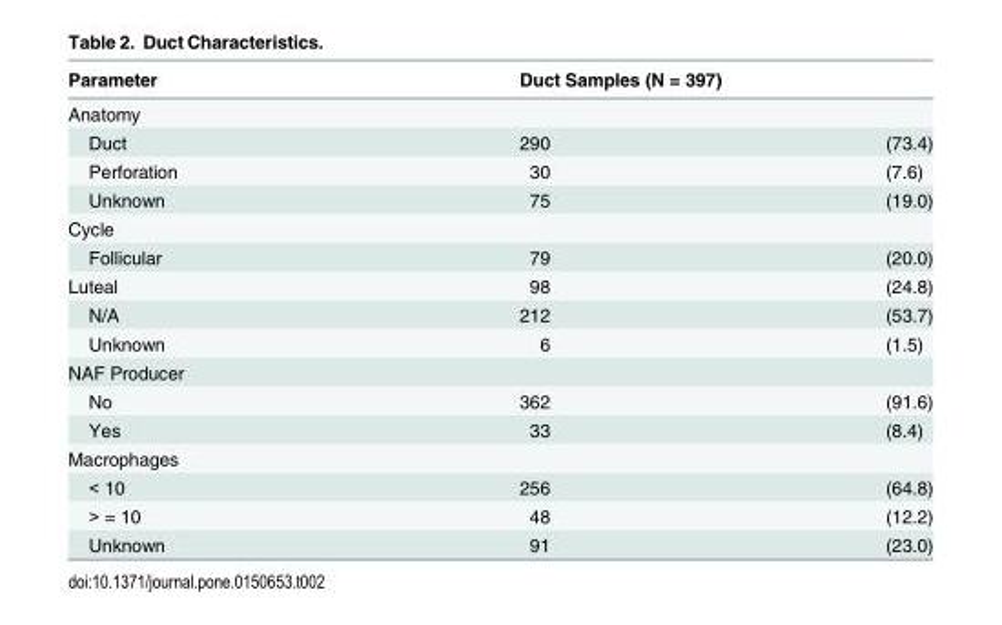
<table><thead><tr><td rowspan="2">Parameter Anatomy</td><td colspan="2">Duct Samples (N = 397)</td></tr><tr><td></td><td></td></tr></thead><tbody><tr><td>Duct</td><td>290</td><td>(73.4)</td></tr><tr><td>Perforation</td><td>30</td><td>(7.6)</td></tr><tr><td>Unknown</td><td>75</td><td>(19.0)</td></tr><tr><td colspan="3">Cycle</td></tr><tr><td>Follicular</td><td>79</td><td>(20.0)</td></tr><tr><td>Luteal</td><td>98</td><td>(24.8)</td></tr><tr><td>N/A</td><td>212</td><td>(53.7)</td></tr><tr><td>Unknown</td><td>6</td><td>(1.5)</td></tr><tr><td colspan="3">NAF Producer</td></tr><tr><td>No</td><td>362</td><td>(91.6)</td></tr><tr><td>Yes</td><td>33</td><td>(8.4)</td></tr><tr><td colspan="3">Macrophages</td></tr><tr><td>&lt; 10</td><td>256</td><td>(64.8)</td></tr><tr><td>&gt; = 10</td><td>48</td><td>(12.2)</td></tr><tr><td>Unknown</td><td>91</td><td>(23.0)</td></tr></tbody></table>